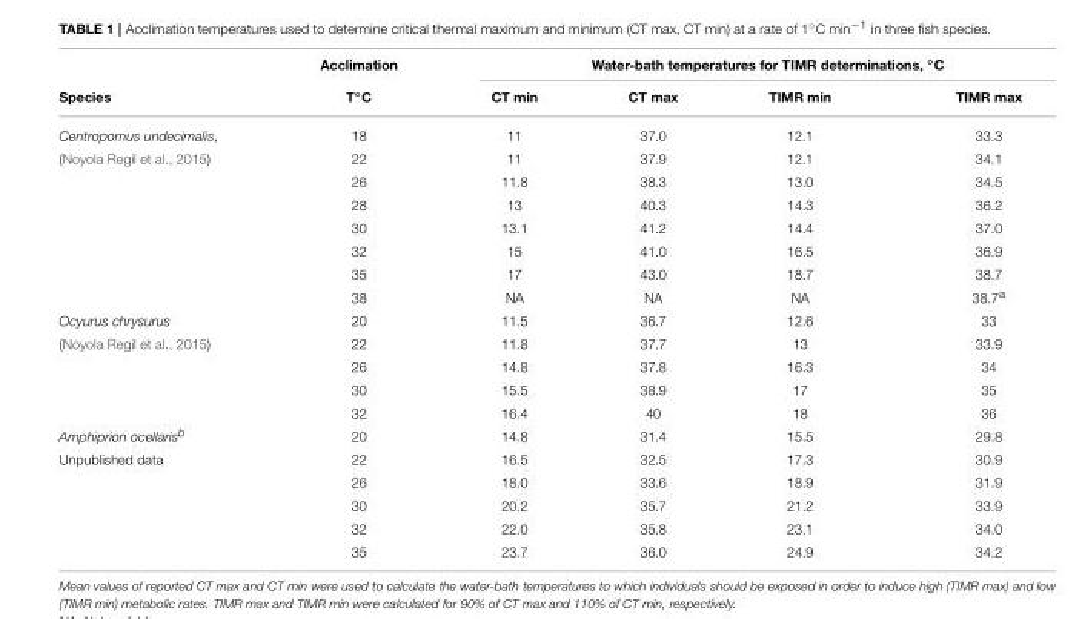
<table><thead><tr><td rowspan="2">Species</td><td rowspan="2">Acclimation T◦C</td><td colspan="4">Water-bath temperatures for TIMR determinations, ◦C</td></tr><tr><td>CT min</td><td>CT max</td><td>TIMR min</td><td>TIMR max</td></tr></thead><tbody><tr><td>Centropomus undecimalis,</td><td>18</td><td>11</td><td>37.0</td><td>12.1</td><td>33.3</td></tr><tr><td rowspan="7">(Noyola Regil et al., 2015)</td><td>22</td><td>11</td><td>37.9</td><td>12.1</td><td>34.1</td></tr><tr><td>26</td><td>11.8</td><td>38.3</td><td>13.0</td><td>34.5</td></tr><tr><td>28</td><td>13</td><td>40.3</td><td>14.3</td><td>36.2</td></tr><tr><td>30</td><td>13.1</td><td>41.2</td><td>14.4</td><td>37.0</td></tr><tr><td>32</td><td>15</td><td>41.0</td><td>16.5</td><td>36.9</td></tr><tr><td>35</td><td>17</td><td>43.0</td><td>18.7</td><td>38.7</td></tr><tr><td>38</td><td>NA</td><td>NA</td><td>NA</td><td>38.7<sup>a</sup></td></tr><tr><td>Ocyurus chrysurus</td><td>20</td><td>11.5</td><td>36.7</td><td>12.6</td><td>33</td></tr><tr><td rowspan="4">(Noyola Regil et al., 2015)</td><td>22</td><td>11.8</td><td>37.7</td><td>13</td><td>33.9</td></tr><tr><td>26</td><td>14.8</td><td>37.8</td><td>16.3</td><td>34</td></tr><tr><td>30</td><td>15.5</td><td>38.9</td><td>17</td><td>35</td></tr><tr><td>32</td><td>16.4</td><td>40</td><td>18</td><td>36</td></tr><tr><td>Amphiprion ocellaris<sup>b</sup></td><td>20</td><td>14.8</td><td>31.4</td><td>15.5</td><td>29.8</td></tr><tr><td rowspan="5">Unpublished data</td><td>22</td><td>16.5</td><td>32.5</td><td>17.3</td><td>30.9</td></tr><tr><td>26</td><td>18.0</td><td>33.6</td><td>18.9</td><td>31.9</td></tr><tr><td>30</td><td>20.2</td><td>35.7</td><td>21.2</td><td>33.9</td></tr><tr><td>32</td><td>22.0</td><td>35.8</td><td>23.1</td><td>34.0</td></tr><tr><td>35</td><td>23.7</td><td>36.0</td><td>24.9</td><td>34.2</td></tr></tbody></table>